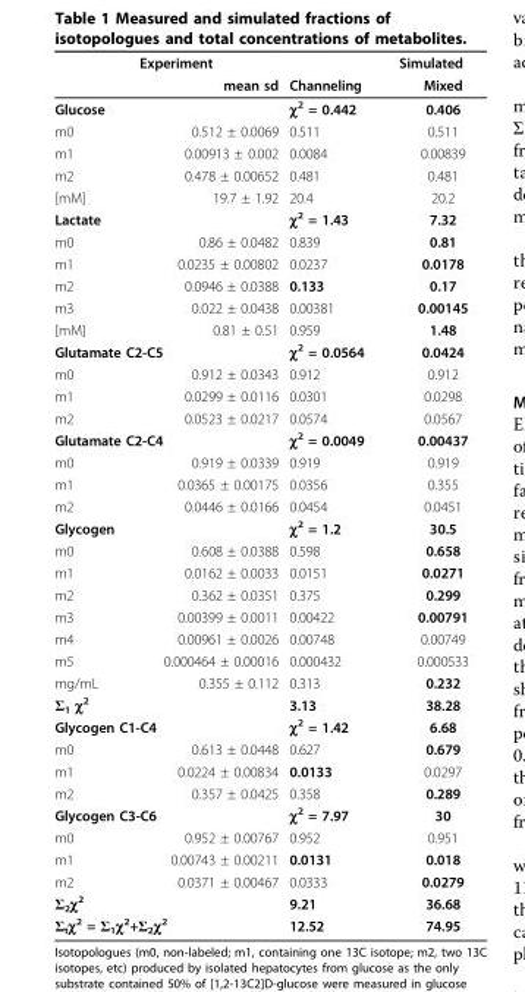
<table><thead><tr><td rowspan="2"></td><td colspan="2">Experiment</td><td rowspan="2">Simulated Mixed</td></tr><tr><td>mean sd</td><td>Channeling</td></tr></thead><tbody><tr><td>Glucose</td><td></td><td>χ<sup>2</sup> = 0.442</td><td>0.406</td></tr><tr><td>m0</td><td>0.512 ± 0.0069</td><td>0.511</td><td>0.511</td></tr><tr><td>m1</td><td>0.00913 ± 0.002</td><td>0.0084</td><td>0.00839</td></tr><tr><td>m2</td><td>0.478 ± 0.00652</td><td>0.481</td><td>0.481</td></tr><tr><td>[mM]</td><td>19.7 ± 1.92</td><td>20.4</td><td>20.2</td></tr><tr><td colspan="2">Lactate</td><td>χ<sup>2</sup> = 1.43</td><td>7.32</td></tr><tr><td>m0</td><td>0.86 ± 0.0482</td><td>0.839</td><td>0.81</td></tr><tr><td>m1</td><td>0.0235 ± 0.00802</td><td>0.0237</td><td>0.0178</td></tr><tr><td>m2</td><td>0.0946 ± 0.0388</td><td>0.133</td><td>0.17</td></tr><tr><td>m3</td><td>0.022 ± 0.0438</td><td>0.00381</td><td>0.00145</td></tr><tr><td>[mM]</td><td>0.81 ± 0.51</td><td>0.959</td><td>1.48</td></tr><tr><td colspan="2">Glutamate C2-C5</td><td>χ<sup>2</sup> = 0.0564</td><td>0.0424</td></tr><tr><td>m0</td><td>0.912 ± 0.0343</td><td>0.912</td><td>0.912</td></tr><tr><td>m1</td><td>0.0299 ± 0.0116</td><td>0.0301</td><td>0.0298</td></tr><tr><td>m2</td><td>0.0523 ± 0.0217</td><td>0.0574</td><td>0.0567</td></tr><tr><td colspan="2">Glutamate C2-C4</td><td>χ<sup>2</sup> = 0.0049</td><td>0.00437</td></tr><tr><td>m0</td><td>0.919 ± 0.0339</td><td>0.919</td><td>0.919</td></tr><tr><td>m1</td><td>0.0365 ± 0.00175</td><td>0.0356</td><td>0.355</td></tr><tr><td>m2</td><td>0.0446 ± 0.0166</td><td>0.0454</td><td>0.0451</td></tr><tr><td colspan="2">Glycogen</td><td>χ<sup>2</sup> = 1.2</td><td>30.5</td></tr><tr><td>m0</td><td>0.608 ± 0.0388</td><td>0.598</td><td>0.658</td></tr><tr><td>m1</td><td>0.0162 ± 0.0033</td><td>0.0151</td><td>0.0271</td></tr><tr><td>m2</td><td>0.362 ± 0.0351</td><td>0.375</td><td>0.299</td></tr><tr><td>m3</td><td>0.00399 ± 0.0011</td><td>0.00422</td><td>0.00791</td></tr><tr><td>m4</td><td>0.00961 ± 0.0026</td><td>0.00748</td><td>0.00749</td></tr><tr><td>m5</td><td>0.000464 ± 0.00016</td><td>0.000432</td><td>0.000533</td></tr><tr><td>mg/mL</td><td>0.355 ± 0.112</td><td>0.313</td><td>0.232</td></tr><tr><td colspan="2">Σ<sub>1</sub> χ<sup>2</sup></td><td>3.13</td><td>38.28</td></tr><tr><td colspan="2">Glycogen C1-C4</td><td>χ<sup>2</sup> = 1.42</td><td>6.68</td></tr><tr><td>m0</td><td>0.613 ± 0.0448</td><td>0.627</td><td>0.679</td></tr><tr><td>m1</td><td>0.0224 ± 0.00834</td><td>0.0133</td><td>0.0297</td></tr><tr><td>m2</td><td>0.357 ± 0.0425</td><td>0.358</td><td>0.289</td></tr><tr><td colspan="2">Glycogen C3-C6</td><td>χ<sup>2</sup> = 7.97</td><td>30</td></tr><tr><td>m0</td><td>0.952 ± 0.00767</td><td>0.952</td><td>0.951</td></tr><tr><td>m1</td><td>0.00743 ± 0.00211</td><td>0.0131</td><td>0.018</td></tr><tr><td>m2</td><td>0.0371 ± 0.00467</td><td>0.0333</td><td>0.0279</td></tr><tr><td colspan="2">Σ<sub>2</sub>χ<sup>2</sup></td><td>9.21</td><td>36.68</td></tr><tr><td colspan="2">Σ<sub>t</sub>χ<sup>2</sup> = Σ<sub>1</sub>χ<sup>2</sup>+Σ<sub>2</sub>χ<sup>2</sup></td><td>12.52</td><td>74.95</td></tr></tbody></table>